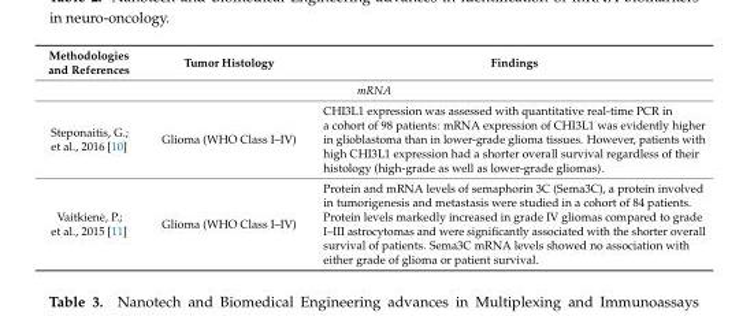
<table><thead><tr><td>Methodologies and References</td><td>Tumor Histology</td><td>Findings</td></tr></thead><tbody><tr><td colspan="3">mRNA</td></tr><tr><td>Steponaitis, G.; et al., 2016 [10]</td><td>Glioma (WHO Class I–IV)</td><td>CHI3L1 expression was assessed with quantitative real-time PCR in a cohort of 98 patients: mRNA expression of CHI3L1 was evidently higher in glioblastoma than in lower-grade glioma tissues. However, patients with high CHI3L1 expression had a shorter overall survival regardless of their histology (high-grade as well as lower-grade gliomas).</td></tr><tr><td>Vaitkien˙e, P.; et al., 2015 [11]</td><td>Glioma (WHO Class I–IV)</td><td>Protein and mRNA levels of semaphorin 3C (Sema3C), a protein involved in tumorigenesis and metastasis were studied in a cohort of 84 patients. Protein levels markedly increased in grade IV gliomas compared to grade I–III astrocytomas and were significantly associated with the shorter overall survival of patients. Sema3C mRNA levels showed no association with either grade of glioma or patient survival.</td></tr></tbody></table>